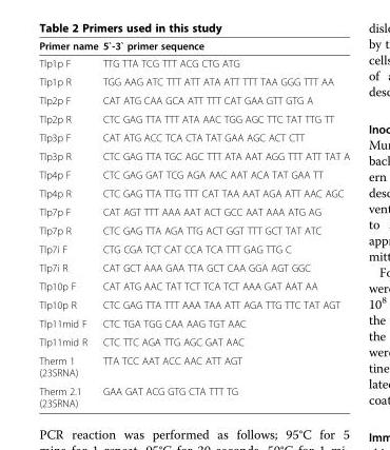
<table><thead><tr><td>Primer name</td><td>5`-3` primer sequence</td></tr></thead><tbody><tr><td>Tlp1p F</td><td>TTG TTA TCG TTT ACG CTG ATG</td></tr><tr><td>Tlp1p R</td><td>TGG AAG ATC TTT ATT ATA ATT TTT TAA GGG TTT AA</td></tr><tr><td>Tlp2p F</td><td>CAT ATG CAA GCA ATT TTT CAT GAA GTT GTG A</td></tr><tr><td>Tlp2p R</td><td>CTC GAG TTA TTT ATA AAC TGG AGC TTC TAT TTG TT</td></tr><tr><td>Tlp3p F</td><td>CAT ATG ACC TCA CTA TAT GAA AGC ACT CTT</td></tr><tr><td>Tlp3p R</td><td>CTC GAG TTA TGC AGC TTT ATA AAT AGG TTT ATT TAT A</td></tr><tr><td>Tlp4p F</td><td>CTC GAG GAT TCG AGA AAC AAT ACA TAT GAA TT</td></tr><tr><td>Tlp4p R</td><td>CTC GAG TTA TTG TTT CAT TAA AAT AGA ATT AAC AGC</td></tr><tr><td>Tlp7p F</td><td>CAT AGT TTT AAA AAT ACT GCC AAT AAA ATG AG</td></tr><tr><td>Tlp7p R</td><td>CTC GAG TTA AGA TTG ACT GGT TTT GCT TAT ATC</td></tr><tr><td>Tlp7i F</td><td>CTG CGA TCT CAT CCA TCA TTT GAG TTG C</td></tr><tr><td>Tlp7i R</td><td>CAT GCT AAA GAA TTA GCT CAA GGA AGT GGC</td></tr><tr><td>Tlp10p F</td><td>CAT ATG AAC TAT TCT TCA TCT AAA GAT AAT AA</td></tr><tr><td>Tlp10p R</td><td>CTC GAG TTA TTT AAA TAA ATT AGA TTG TTC TAT AGT</td></tr><tr><td>Tlp11mid F</td><td>CTC TGA TGG CAA AAG TGT AAC</td></tr><tr><td>Tlp11mid R</td><td>CTC TTC AGA TTG AGC GAT AAC</td></tr><tr><td>Therm 1 (23SRNA)</td><td>TTA TCC AAT ACC AAC ATT AGT</td></tr><tr><td>Therm 2.1 (23SRNA)</td><td>GAA GAT ACG GTG CTA TTT TG</td></tr></tbody></table>